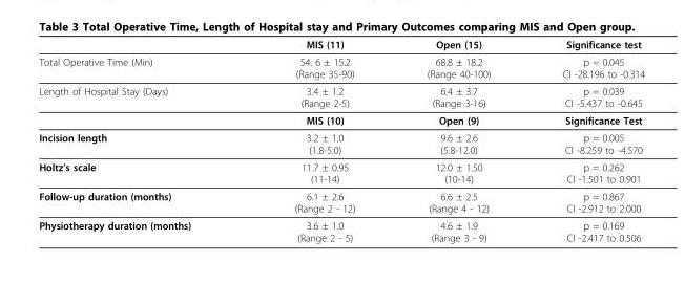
<table><thead><tr><td></td><td>MIS (11)</td><td>Open (15)</td><td>Significance test</td></tr></thead><tbody><tr><td>Total Operative Time (Min)</td><td>54. 6 ± 15.2 (Range 35-90)</td><td>68.8 ± 18.2 (Range 40-100)</td><td>p = 0.045 CI -28.196 to -0.314</td></tr><tr><td rowspan="2">Length of Hospital Stay (Days)</td><td>3.4 ± 1.2 (Range 2-5)</td><td>6.4 ± 3.7 (Range 3-16)</td><td>p = 0.039 CI -5.437 to -0.645</td></tr><tr><td>MIS (10)</td><td>Open (9)</td><td>Significance Test</td></tr><tr><td>Incision length</td><td>3.2 ± 1.0 (1.8-5.0)</td><td>9.6 ± 2.6 (5.8-12.0)</td><td>p = 0.005 CI -8.259 to -4.570</td></tr><tr><td>Holtz’s scale</td><td>11.7 ± 0.95 (11-14)</td><td>12.0 ± 1.50 (10-14)</td><td>p = 0.262 CI -1.501 to 0.901</td></tr><tr><td>Follow-up duration (months)</td><td>6.1 ± 2.6 (Range 2 - 12)</td><td>6.6 ± 2.5 (Range 4 - 12)</td><td>p = 0.867 CI -2.912 to 2.000</td></tr><tr><td>Physiotherapy duration (months)</td><td>3.6 ± 1.0 (Range 2 - 5)</td><td>4.6 ± 1.9 (Range 3 - 9)</td><td>p = 0.169 CI -2.417 to 0.506</td></tr></tbody></table>